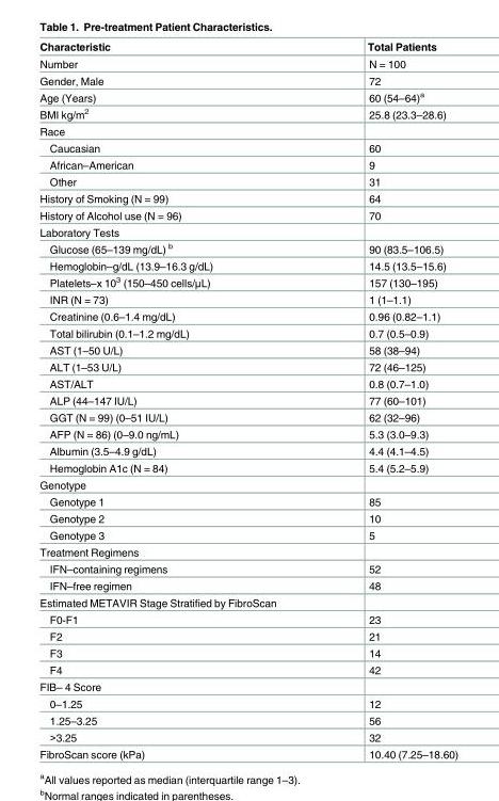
<table><thead><tr><td>Characteristic</td><td>Total Patients</td></tr></thead><tbody><tr><td>Number</td><td>N = 100</td></tr><tr><td>Gender, Male</td><td>72</td></tr><tr><td>Age (Years)</td><td>60 (54–64)<sup>a</sup></td></tr><tr><td>BMI kg/m<sup>2</sup></td><td>25.8 (23.3–28.6)</td></tr><tr><td colspan="2">Race</td></tr><tr><td>Caucasian</td><td>60</td></tr><tr><td>African–American</td><td>9</td></tr><tr><td>Other</td><td>31</td></tr><tr><td>History of Smoking (N = 99)</td><td>64</td></tr><tr><td>History of Alcohol use (N = 96)</td><td>70</td></tr><tr><td colspan="2">Laboratory Tests</td></tr><tr><td>Glucose (65–139 mg/dL) <sup>b</sup></td><td>90 (83.5–106.5)</td></tr><tr><td>Hemoglobin–g/dL (13.9–16.3 g/dL)</td><td>14.5 (13.5–15.6)</td></tr><tr><td>Platelets–x 10<sup>3</sup> (150–450 cells/μL)</td><td>157 (130–195)</td></tr><tr><td>INR (N = 73)</td><td>1 (1–1.1)</td></tr><tr><td>Creatinine (0.6–1.4 mg/dL)</td><td>0.96 (0.82–1.1)</td></tr><tr><td>Total bilirubin (0.1–1.2 mg/dL)</td><td>0.7 (0.5–0.9)</td></tr><tr><td>AST (1–50 U/L)</td><td>58 (38–94)</td></tr><tr><td>ALT (1–53 U/L)</td><td>72 (46–125)</td></tr><tr><td>AST/ALT</td><td>0.8 (0.7–1.0)</td></tr><tr><td>ALP (44–147 IU/L)</td><td>77 (60–101)</td></tr><tr><td>GGT (N = 99) (0–51 IU/L)</td><td>62 (32–96)</td></tr><tr><td>AFP (N = 86) (0–9.0 ng/mL)</td><td>5.3 (3.0–9.3)</td></tr><tr><td>Albumin (3.5–4.9 g/dL)</td><td>4.4 (4.1–4.5)</td></tr><tr><td>Hemoglobin A1c (N = 84)</td><td>5.4 (5.2–5.9)</td></tr><tr><td colspan="2">Genotype</td></tr><tr><td>Genotype 1</td><td>85</td></tr><tr><td>Genotype 2</td><td>10</td></tr><tr><td>Genotype 3</td><td>5</td></tr><tr><td colspan="2">Treatment Regimens</td></tr><tr><td>IFN–containing regimens</td><td>52</td></tr><tr><td>IFN–free regimen</td><td>48</td></tr><tr><td colspan="2">Estimated METAVIR Stage Stratified by FibroScan</td></tr><tr><td>F0-F1</td><td>23</td></tr><tr><td>F2</td><td>21</td></tr><tr><td>F3</td><td>14</td></tr><tr><td>F4</td><td>42</td></tr><tr><td colspan="2">FIB– 4 Score</td></tr><tr><td>0–1.25</td><td>12</td></tr><tr><td>1.25–3.25</td><td>56</td></tr><tr><td>&gt;3.25</td><td>32</td></tr><tr><td>FibroScan score (kPa)</td><td>10.40 (7.25–18.60)</td></tr></tbody></table>